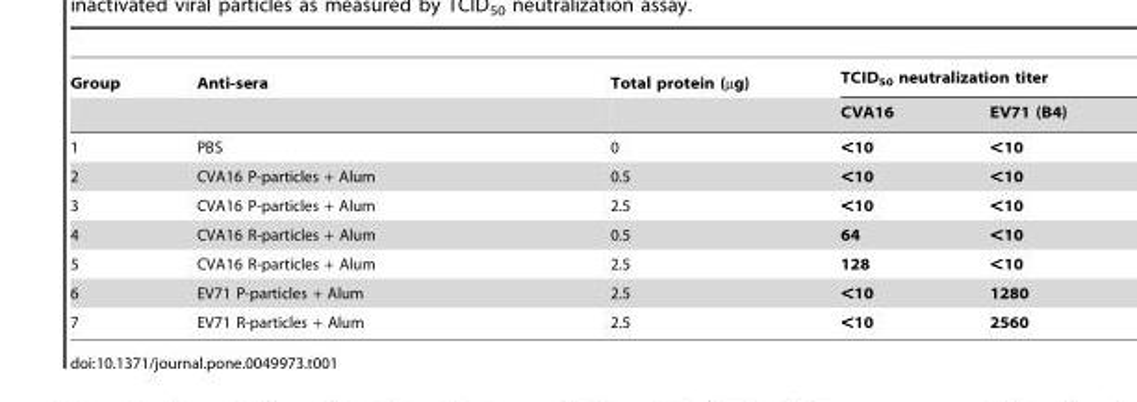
<table><thead><tr><td rowspan="2">Group</td><td rowspan="2">Anti-sera</td><td rowspan="2">Total protein (µg)</td><td colspan="2">TCID<sub>50</sub> neutralization titer</td></tr><tr><td>CVA16</td><td>EV71 (B4)</td></tr></thead><tbody><tr><td>1</td><td>PBS</td><td>0</td><td>&lt;10</td><td>&lt;10</td></tr><tr><td>2</td><td>CVA16 P-particles + Alum</td><td>0.5</td><td>&lt;10</td><td>&lt;10</td></tr><tr><td>3</td><td>CVA16 P-particles + Alum</td><td>2.5</td><td>&lt;10</td><td>&lt;10</td></tr><tr><td>4</td><td>CVA16 R-particles + Alum</td><td>0.5</td><td>64</td><td>&lt;10</td></tr><tr><td>5</td><td>CVA16 R-particles + Alum</td><td>2.5</td><td>128</td><td>&lt;10</td></tr><tr><td>6</td><td>EV71 P-particles + Alum</td><td>2.5</td><td>&lt;10</td><td>1280</td></tr><tr><td>7</td><td>EV71 R-particles + Alum</td><td>2.5</td><td>&lt;10</td><td>2560</td></tr></tbody></table>